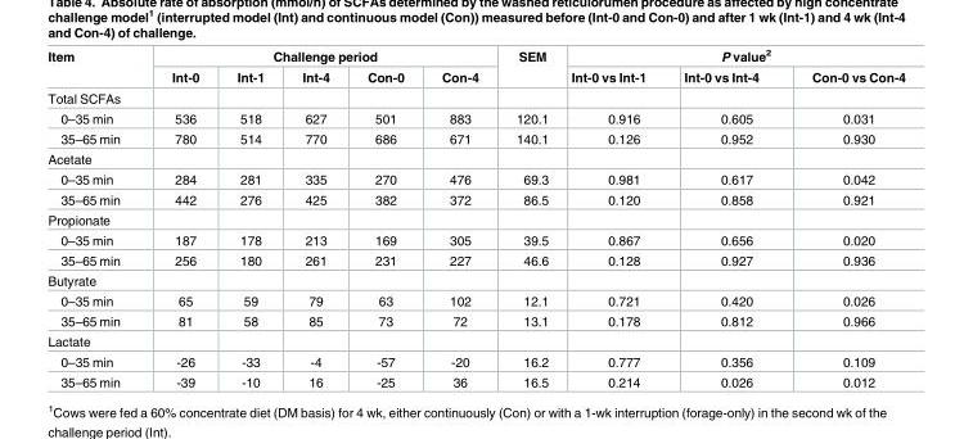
<table><thead><tr><td rowspan="2">Item</td><td colspan="5">Challenge period</td><td rowspan="2">SEM</td><td colspan="3">P value<sup>2</sup></td></tr><tr><td>Int-0</td><td>Int-1</td><td>Int-4</td><td>Con-0</td><td>Con-4</td><td>Int-0 vs Int-1</td><td>Int-0 vs Int-4</td><td>Con-0 vs Con-4</td></tr></thead><tbody><tr><td colspan="10">Total SCFAs</td></tr><tr><td>0–35 min</td><td>536</td><td>518</td><td>627</td><td>501</td><td>883</td><td>120.1</td><td>0.916</td><td>0.605</td><td>0.031</td></tr><tr><td>35–65 min</td><td>780</td><td>514</td><td>770</td><td>686</td><td>671</td><td>140.1</td><td>0.126</td><td>0.952</td><td>0.930</td></tr><tr><td colspan="10">Acetate</td></tr><tr><td>0–35 min</td><td>284</td><td>281</td><td>335</td><td>270</td><td>476</td><td>69.3</td><td>0.981</td><td>0.617</td><td>0.042</td></tr><tr><td>35–65 min</td><td>442</td><td>276</td><td>425</td><td>382</td><td>372</td><td>86.5</td><td>0.120</td><td>0.858</td><td>0.921</td></tr><tr><td colspan="10">Propionate</td></tr><tr><td>0–35 min</td><td>187</td><td>178</td><td>213</td><td>169</td><td>305</td><td>39.5</td><td>0.867</td><td>0.656</td><td>0.020</td></tr><tr><td>35–65 min</td><td>256</td><td>180</td><td>261</td><td>231</td><td>227</td><td>46.6</td><td>0.128</td><td>0.927</td><td>0.936</td></tr><tr><td colspan="10">Butyrate</td></tr><tr><td>0–35 min</td><td>65</td><td>59</td><td>79</td><td>63</td><td>102</td><td>12.1</td><td>0.721</td><td>0.420</td><td>0.026</td></tr><tr><td>35–65 min</td><td>81</td><td>58</td><td>85</td><td>73</td><td>72</td><td>13.1</td><td>0.178</td><td>0.812</td><td>0.966</td></tr><tr><td colspan="10">Lactate</td></tr><tr><td>0–35 min</td><td>-26</td><td>-33</td><td>-4</td><td>-57</td><td>-20</td><td>16.2</td><td>0.777</td><td>0.356</td><td>0.109</td></tr><tr><td>35–65 min</td><td>-39</td><td>-10</td><td>16</td><td>-25</td><td>36</td><td>16.5</td><td>0.214</td><td>0.026</td><td>0.012</td></tr></tbody></table>